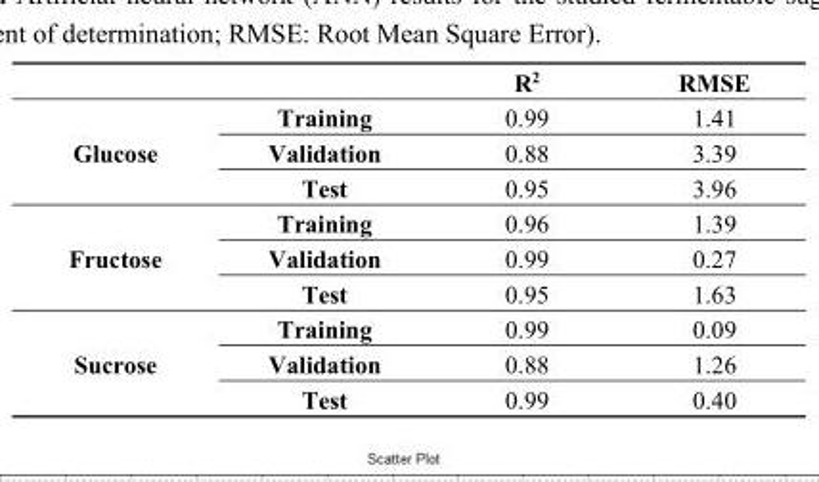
<table><thead><tr><td></td><td></td><td>R<sup>2</sup></td><td>RMSE</td></tr></thead><tbody><tr><td rowspan="3">Glucose</td><td>Training</td><td>0.99</td><td>1.41</td></tr><tr><td>Validation</td><td>0.88</td><td>3.39</td></tr><tr><td>Test</td><td>0.95</td><td>3.96</td></tr><tr><td rowspan="3">Fructose</td><td>Training</td><td>0.96</td><td>1.39</td></tr><tr><td>Validation</td><td>0.99</td><td>0.27</td></tr><tr><td>Test</td><td>0.95</td><td>1.63</td></tr><tr><td rowspan="3">Sucrose</td><td>Training</td><td>0.99</td><td>0.09</td></tr><tr><td>Validation</td><td>0.88</td><td>1.26</td></tr><tr><td>Test</td><td>0.99</td><td>0.40</td></tr></tbody></table>